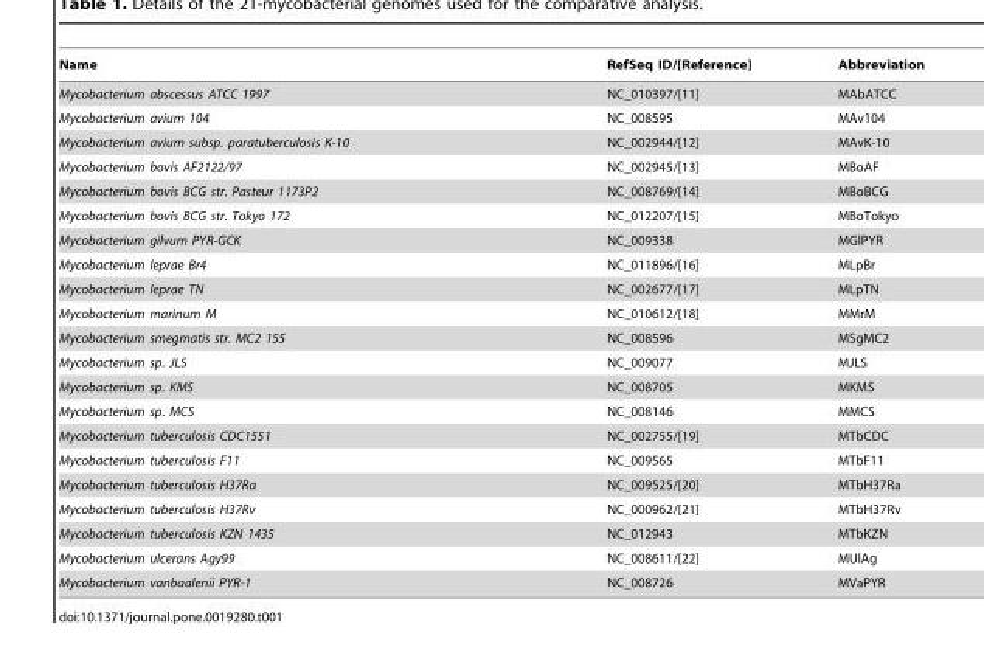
<table><thead><tr><td>Name</td><td>RefSeq ID/[Reference]</td><td>Abbreviation</td></tr></thead><tbody><tr><td>Mycobacterium abscessus ATCC 1997</td><td>NC_010397/[11]</td><td>MAbATCC</td></tr><tr><td>Mycobacterium avium 104</td><td>NC_008595</td><td>MAv104</td></tr><tr><td>Mycobacterium avium subsp. paratuberculosis K-10</td><td>NC_002944/[12]</td><td>MAvK-10</td></tr><tr><td>Mycobacterium bovis AF2122/97</td><td>NC_002945/[13]</td><td>MBoAF</td></tr><tr><td>Mycobacterium bovis BCG str. Pasteur 1173P2</td><td>NC_008769/[14]</td><td>MBoBCG</td></tr><tr><td>Mycobacterium bovis BCG str. Tokyo 172</td><td>NC_012207/[15]</td><td>MBoTokyo</td></tr><tr><td>Mycobacterium gilvum PYR-GCK</td><td>NC_009338</td><td>MGlPYR</td></tr><tr><td>Mycobacterium leprae Br4</td><td>NC_011896/[16]</td><td>MLpBr</td></tr><tr><td>Mycobacterium leprae TN</td><td>NC_002677/[17]</td><td>MLpTN</td></tr><tr><td>Mycobacterium marinum M</td><td>NC_010612/[18]</td><td>MMrM</td></tr><tr><td>Mycobacterium smegmatis str. MC2 155</td><td>NC_008596</td><td>MSgMC2</td></tr><tr><td>Mycobacterium sp. JLS</td><td>NC_009077</td><td>MJLS</td></tr><tr><td>Mycobacterium sp. KMS</td><td>NC_008705</td><td>MKMS</td></tr><tr><td>Mycobacterium sp. MCS</td><td>NC_008146</td><td>MMCS</td></tr><tr><td>Mycobacterium tuberculosis CDC1551</td><td>NC_002755/[19]</td><td>MTbCDC</td></tr><tr><td>Mycobacterium tuberculosis F11</td><td>NC_009565</td><td>MTbF11</td></tr><tr><td>Mycobacterium tuberculosis H37Ra</td><td>NC_009525/[20]</td><td>MTbH37Ra</td></tr><tr><td>Mycobacterium tuberculosis H37Rv</td><td>NC_000962/[21]</td><td>MTbH37Rv</td></tr><tr><td>Mycobacterium tuberculosis KZN 1435</td><td>NC_012943</td><td>MTbKZN</td></tr><tr><td>Mycobacterium ulcerans Agy99</td><td>NC_008611/[22]</td><td>MUlAg</td></tr><tr><td>Mycobacterium vanbaalenii PYR-1</td><td>NC_008726</td><td>MVaPYR</td></tr></tbody></table>